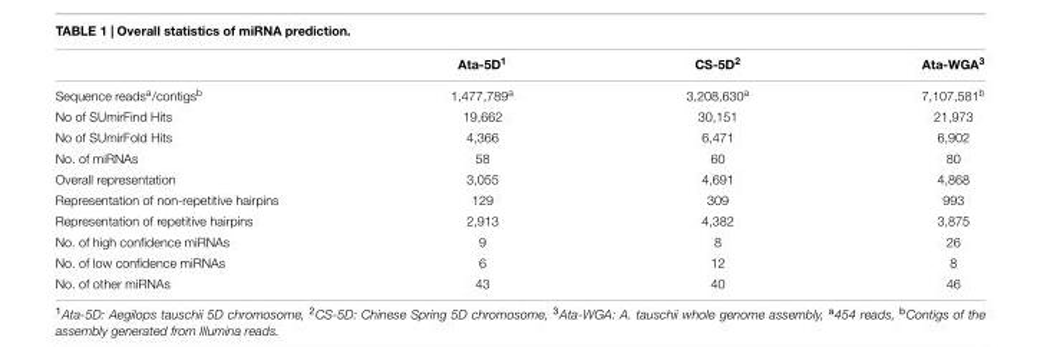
<table><thead><tr><td></td><td>Ata-5D<sup>1</sup></td><td>CS-5D<sup>2</sup></td><td>Ata-WGA<sup>3</sup></td></tr></thead><tbody><tr><td>Sequence reads<sup>a</sup>/contigs<sup>b</sup></td><td>1,477,789<sup>a</sup></td><td>3,208,630<sup>a</sup></td><td>7,107,581<sup>b</sup></td></tr><tr><td>No of SUmirFind Hits</td><td>19,662</td><td>30,151</td><td>21,973</td></tr><tr><td>No of SUmirFold Hits</td><td>4,366</td><td>6,471</td><td>6,902</td></tr><tr><td>No. of miRNAs</td><td>58</td><td>60</td><td>80</td></tr><tr><td>Overall representation</td><td>3,055</td><td>4,691</td><td>4,868</td></tr><tr><td>Representation of non-repetitive hairpins</td><td>129</td><td>309</td><td>993</td></tr><tr><td>Representation of repetitive hairpins</td><td>2,913</td><td>4,382</td><td>3,875</td></tr><tr><td>No. of high confidence miRNAs</td><td>9</td><td>8</td><td>26</td></tr><tr><td>No. of low confidence miRNAs</td><td>6</td><td>12</td><td>8</td></tr><tr><td>No. of other miRNAs</td><td>43</td><td>40</td><td>46</td></tr></tbody></table>